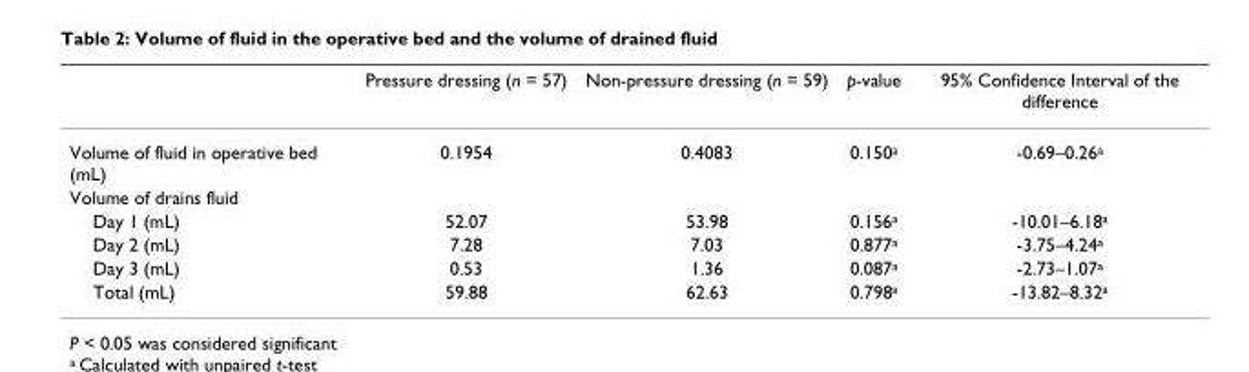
<table><thead><tr><td></td><td>Pressure dressing (n = 57)</td><td>Non-pressure dressing (n = 59)</td><td>p-value</td><td>95% Confidence Interval of the difference</td></tr></thead><tbody><tr><td>Volume of fluid in operative bed (mL)</td><td>0.1954</td><td>0.4083</td><td>0.150<sup>a</sup></td><td>-0.69–0.26<sup>a</sup></td></tr><tr><td colspan="5">Volume of drains fluid</td></tr><tr><td>Day 1 (mL)</td><td>52.07</td><td>53.98</td><td>0.156<sup>a</sup></td><td>-10.01–6.18<sup>a</sup></td></tr><tr><td>Day 2 (mL)</td><td>7.28</td><td>7.03</td><td>0.877<sup>a</sup></td><td>-3.75–4.24<sup>a</sup></td></tr><tr><td>Day 3 (mL)</td><td>0.53</td><td>1.36</td><td>0.087<sup>a</sup></td><td>-2.73–1.07<sup>a</sup></td></tr><tr><td>Total (mL)</td><td>59.88</td><td>62.63</td><td>0.798<sup>a</sup></td><td>-13.82–8.32<sup>a</sup></td></tr></tbody></table>